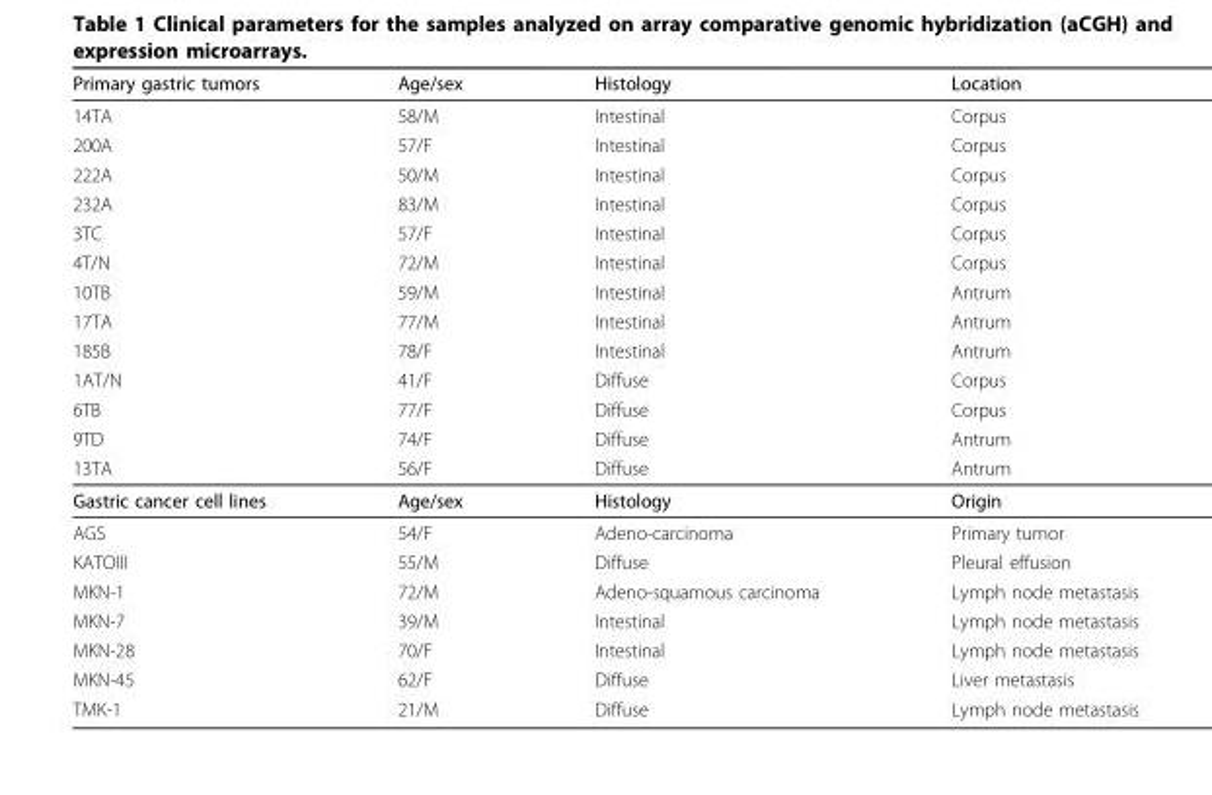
<table><thead><tr><td>Primary gastric tumors</td><td>Age/sex</td><td>Histology</td><td>Location</td></tr></thead><tbody><tr><td>14TA</td><td>58/M</td><td>Intestinal</td><td>Corpus</td></tr><tr><td>200A</td><td>57/F</td><td>Intestinal</td><td>Corpus</td></tr><tr><td>222A</td><td>50/M</td><td>Intestinal</td><td>Corpus</td></tr><tr><td>232A</td><td>83/M</td><td>Intestinal</td><td>Corpus</td></tr><tr><td>3TC</td><td>57/F</td><td>Intestinal</td><td>Corpus</td></tr><tr><td>4T/N</td><td>72/M</td><td>Intestinal</td><td>Corpus</td></tr><tr><td>10TB</td><td>59/M</td><td>Intestinal</td><td>Antrum</td></tr><tr><td>17TA</td><td>77/M</td><td>Intestinal</td><td>Antrum</td></tr><tr><td>185B</td><td>78/F</td><td>Intestinal</td><td>Antrum</td></tr><tr><td>1AT/N</td><td>41/F</td><td>Diffuse</td><td>Corpus</td></tr><tr><td>6TB</td><td>77/F</td><td>Diffuse</td><td>Corpus</td></tr><tr><td>9TD</td><td>74/F</td><td>Diffuse</td><td>Antrum</td></tr><tr><td>13TA</td><td>56/F</td><td>Diffuse</td><td>Antrum</td></tr><tr><td>Gastric cancer cell lines</td><td>Age/sex</td><td>Histology</td><td>Origin</td></tr><tr><td>AGS</td><td>54/F</td><td>Adeno-carcinoma</td><td>Primary tumor</td></tr><tr><td>KATOIII</td><td>55/M</td><td>Diffuse</td><td>Pleural effusion</td></tr><tr><td>MKN-1</td><td>72/M</td><td>Adeno-squamous carcinoma</td><td>Lymph node metastasis</td></tr><tr><td>MKN-7</td><td>39/M</td><td>Intestinal</td><td>Lymph node metastasis</td></tr><tr><td>MKN-28</td><td>70/F</td><td>Intestinal</td><td>Lymph node metastasis</td></tr><tr><td>MKN-45</td><td>62/F</td><td>Diffuse</td><td>Liver metastasis</td></tr><tr><td>TMK-1</td><td>21/M</td><td>Diffuse</td><td>Lymph node metastasis</td></tr></tbody></table>